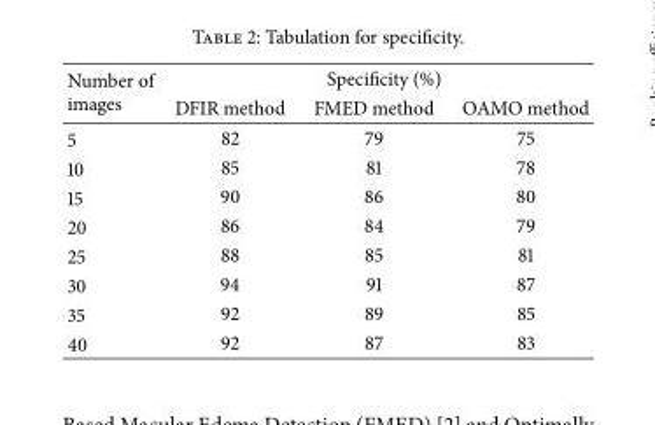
<table><thead><tr><td rowspan="2">Number of images</td><td colspan="3">Specificity (%)</td></tr><tr><td>DFIR method</td><td>FMED method</td><td>OAMO method</td></tr></thead><tbody><tr><td>5</td><td>82</td><td>79</td><td>75</td></tr><tr><td>10</td><td>85</td><td>81</td><td>78</td></tr><tr><td>15</td><td>90</td><td>86</td><td>80</td></tr><tr><td>20</td><td>86</td><td>84</td><td>79</td></tr><tr><td>25</td><td>88</td><td>85</td><td>81</td></tr><tr><td>30</td><td>94</td><td>91</td><td>87</td></tr><tr><td>35</td><td>92</td><td>89</td><td>85</td></tr><tr><td>40</td><td>92</td><td>87</td><td>83</td></tr></tbody></table>